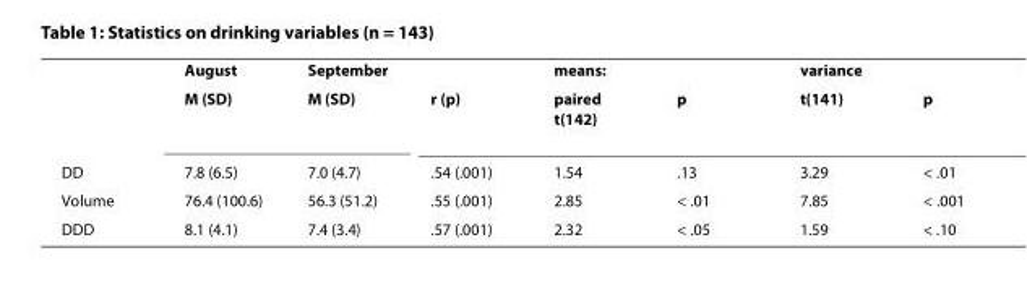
<table><thead><tr><td rowspan="2"></td><td rowspan="2">August M (SD)</td><td rowspan="2">September M (SD)</td><td rowspan="2">r (p)</td><td colspan="2">means:</td><td colspan="2">variance</td></tr><tr><td>paired t(142)</td><td>p</td><td>t(141)</td><td>p</td></tr></thead><tbody><tr><td>DD</td><td>7.8 (6.5)</td><td>7.0 (4.7)</td><td>.54 (.001)</td><td>1.54</td><td>.13</td><td>3.29</td><td>&lt; .01</td></tr><tr><td>Volume</td><td>76.4 (100.6)</td><td>56.3 (51.2)</td><td>.55 (.001)</td><td>2.85</td><td>&lt; .01</td><td>7.85</td><td>&lt; .001</td></tr><tr><td>DDD</td><td>8.1 (4.1)</td><td>7.4 (3.4)</td><td>.57 (.001)</td><td>2.32</td><td>&lt; .05</td><td>1.59</td><td>&lt; .10</td></tr></tbody></table>